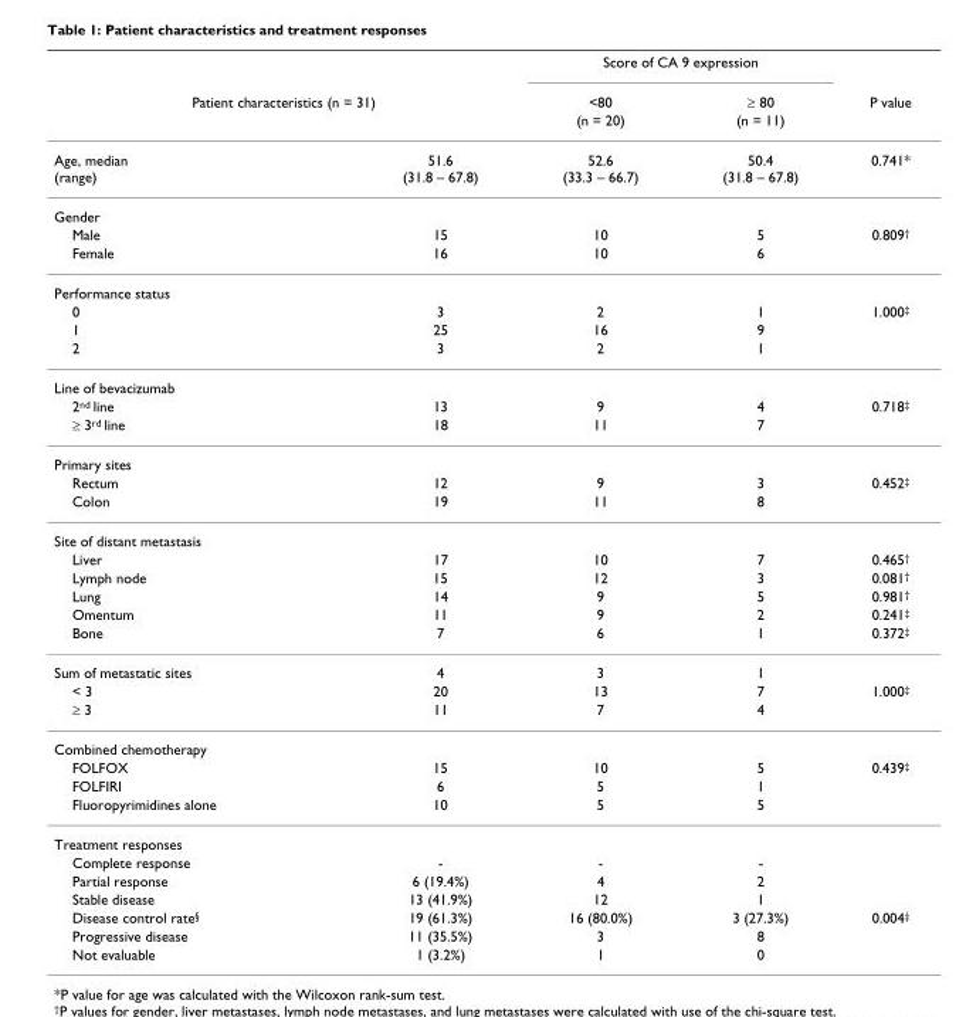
<table><thead><tr><td></td><td></td><td colspan="2">Score of CA 9 expression</td><td rowspan="3">P value</td></tr><tr><td colspan="2">Patient characteristics (n = 31)</td><td rowspan="2">&lt;80 (n = 20)</td><td rowspan="2">≥ 80 (n = 11)</td></tr><tr><td></td><td></td></tr></thead><tbody><tr><td>Age, median (range)</td><td>51.6 (31.8 – 67.8)</td><td>52.6 (33.3 – 66.7)</td><td>50.4 (31.8 – 67.8)</td><td>0.741*</td></tr><tr><td colspan="5">Gender</td></tr><tr><td>Male</td><td>15</td><td>10</td><td>5</td><td>0.809<sup>†</sup></td></tr><tr><td>Female</td><td>16</td><td>10</td><td>6</td><td></td></tr><tr><td colspan="5">Performance status</td></tr><tr><td>0</td><td>3</td><td>2</td><td>1</td><td>1.000<sup>‡</sup></td></tr><tr><td>1</td><td>25</td><td>16</td><td>9</td><td></td></tr><tr><td>2</td><td>3</td><td>2</td><td>1</td><td></td></tr><tr><td colspan="5">Line of bevacizumab</td></tr><tr><td>2<sup>nd</sup> line</td><td>13</td><td>9</td><td>4</td><td>0.718<sup>‡</sup></td></tr><tr><td>≥ 3<sup>rd</sup> line</td><td>18</td><td>11</td><td>7</td><td></td></tr><tr><td colspan="5">Primary sites</td></tr><tr><td>Rectum</td><td>12</td><td>9</td><td>3</td><td>0.452<sup>‡</sup></td></tr><tr><td>Colon</td><td>19</td><td>11</td><td>8</td><td></td></tr><tr><td colspan="5">Site of distant metastasis</td></tr><tr><td>Liver</td><td>17</td><td>10</td><td>7</td><td>0.465<sup>†</sup></td></tr><tr><td>Lymph node</td><td>15</td><td>12</td><td>3</td><td>0.081<sup>†</sup></td></tr><tr><td>Lung</td><td>14</td><td>9</td><td>5</td><td>0.981<sup>†</sup></td></tr><tr><td>Omentum</td><td>11</td><td>9</td><td>2</td><td>0.241<sup>‡</sup></td></tr><tr><td>Bone</td><td>7</td><td>6</td><td>1</td><td>0.372<sup>‡</sup></td></tr><tr><td>Sum of metastatic sites</td><td>4</td><td>3</td><td>1</td><td></td></tr><tr><td>&lt; 3</td><td>20</td><td>13</td><td>7</td><td>1.000<sup>‡</sup></td></tr><tr><td>≥ 3</td><td>11</td><td>7</td><td>4</td><td></td></tr><tr><td colspan="5">Combined chemotherapy</td></tr><tr><td>FOLFOX</td><td>15</td><td>10</td><td>5</td><td>0.439<sup>‡</sup></td></tr><tr><td>FOLFIRI</td><td>6</td><td>5</td><td>1</td><td></td></tr><tr><td>Fluoropyrimidines alone</td><td>10</td><td>5</td><td>5</td><td></td></tr><tr><td colspan="5">Treatment responses</td></tr><tr><td>Complete response</td><td>-</td><td>-</td><td>-</td><td></td></tr><tr><td>Partial response</td><td>6 (19.4%)</td><td>4</td><td>2</td><td></td></tr><tr><td>Stable disease</td><td>13 (41.9%)</td><td>12</td><td>1</td><td></td></tr><tr><td>Disease control rate<sup>§</sup></td><td>19 (61.3%)</td><td>16 (80.0%)</td><td>3 (27.3%)</td><td>0.004<sup>‡</sup></td></tr><tr><td>Progressive disease</td><td>11 (35.5%)</td><td>3</td><td>8</td><td></td></tr><tr><td>Not evaluable</td><td>1 (3.2%)</td><td>1</td><td>0</td><td></td></tr></tbody></table>